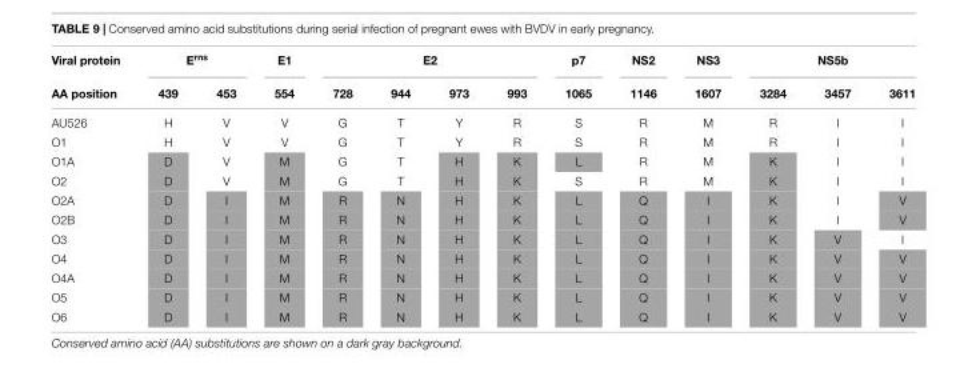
<table><thead><tr><td rowspan="2">Viral protein AA position</td><td colspan="2">E<sup>rns</sup></td><td rowspan="2">E1 554</td><td colspan="4">E2</td><td rowspan="2">p7 1065</td><td rowspan="2">NS2 1146</td><td rowspan="2">NS3 1607</td><td colspan="3">NS5b</td></tr><tr><td>439</td><td>453</td><td>728</td><td>944</td><td>973</td><td>993</td><td>3284</td><td>3457</td><td>3611</td></tr></thead><tbody><tr><td>AU526</td><td>H</td><td>V</td><td>V</td><td>G</td><td>T</td><td>Y</td><td>R</td><td>S</td><td>R</td><td>M</td><td>R</td><td>I</td><td>I</td></tr><tr><td>O1</td><td>H</td><td>V</td><td>V</td><td>G</td><td>T</td><td>Y</td><td>R</td><td>S</td><td>R</td><td>M</td><td>R</td><td>I</td><td>I</td></tr><tr><td>O1A</td><td>D</td><td>V</td><td>M</td><td>G</td><td>T</td><td>H</td><td>K</td><td>L</td><td>R</td><td>M</td><td>K</td><td>I</td><td>I</td></tr><tr><td>O2</td><td>D</td><td>V</td><td>M</td><td>G</td><td>T</td><td>H</td><td>K</td><td>S</td><td>R</td><td>M</td><td>K</td><td>I</td><td>I</td></tr><tr><td>O2A</td><td>D</td><td>I</td><td>M</td><td>R</td><td>N</td><td>H</td><td>K</td><td>L</td><td>Q</td><td>I</td><td>K</td><td>I</td><td>V</td></tr><tr><td>O2B</td><td>D</td><td>I</td><td>M</td><td>R</td><td>N</td><td>H</td><td>K</td><td>L</td><td>Q</td><td>I</td><td>K</td><td>I</td><td>V</td></tr><tr><td>O3</td><td>D</td><td>I</td><td>M</td><td>R</td><td>N</td><td>H</td><td>K</td><td>L</td><td>Q</td><td>I</td><td>K</td><td>V</td><td>I</td></tr><tr><td>O4</td><td>D</td><td>I</td><td>M</td><td>R</td><td>N</td><td>H</td><td>K</td><td>L</td><td>Q</td><td>I</td><td>K</td><td>V</td><td>V</td></tr><tr><td>O4A</td><td>D</td><td>I</td><td>M</td><td>R</td><td>N</td><td>H</td><td>K</td><td>L</td><td>Q</td><td>I</td><td>K</td><td>V</td><td>V</td></tr><tr><td>O5</td><td>D</td><td>I</td><td>M</td><td>R</td><td>N</td><td>H</td><td>K</td><td>L</td><td>Q</td><td>I</td><td>K</td><td>V</td><td>V</td></tr><tr><td>O6</td><td>D</td><td>I</td><td>M</td><td>R</td><td>N</td><td>H</td><td>K</td><td>L</td><td>Q</td><td>I</td><td>K</td><td>V</td><td>V</td></tr></tbody></table>